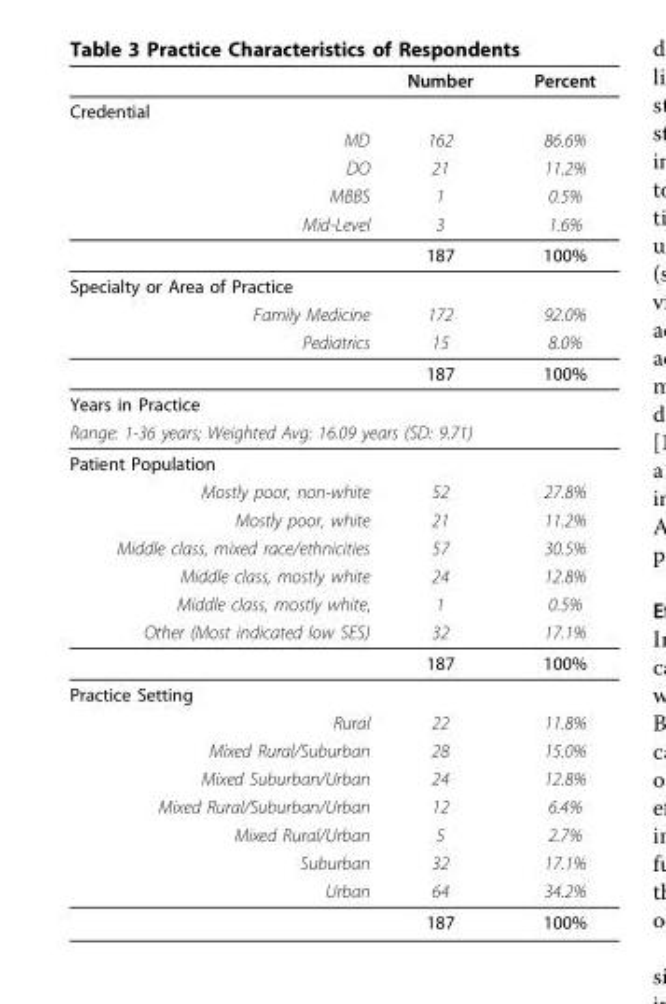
<table><thead><tr><td></td><td>Number</td><td>Percent</td></tr></thead><tbody><tr><td colspan="3">Credential</td></tr><tr><td>MD</td><td>162</td><td>86.6%</td></tr><tr><td>DO</td><td>21</td><td>11.2%</td></tr><tr><td>MBBS</td><td>1</td><td>0.5%</td></tr><tr><td rowspan="2">Mid-Level</td><td>3</td><td>1.6%</td></tr><tr><td>187</td><td>100%</td></tr><tr><td colspan="3">Specialty or Area of Practice</td></tr><tr><td>Family Medicine</td><td>172</td><td>92.0%</td></tr><tr><td rowspan="2">Pediatrics</td><td>15</td><td>8.0%</td></tr><tr><td>187</td><td>100%</td></tr><tr><td colspan="3">Years in Practice</td></tr><tr><td colspan="3">Range: 1-36 years; Weighted Avg: 16.09 years (SD: 9.71)</td></tr><tr><td colspan="3">Patient Population</td></tr><tr><td>Mostly poor, non-white</td><td>52</td><td>27.8%</td></tr><tr><td>Mostly poor, white</td><td>21</td><td>11.2%</td></tr><tr><td>Middle class, mixed race/ethnicities</td><td>57</td><td>30.5%</td></tr><tr><td>Middle class, mostly white</td><td>24</td><td>12.8%</td></tr><tr><td>Middle class, mostly white,</td><td>1</td><td>0.5%</td></tr><tr><td rowspan="2">Other (Most indicated low SES)</td><td>32</td><td>17.1%</td></tr><tr><td>187</td><td>100%</td></tr><tr><td colspan="3">Practice Setting</td></tr><tr><td>Rural</td><td>22</td><td>11.8%</td></tr><tr><td>Mixed Rural/Suburban</td><td>28</td><td>15.0%</td></tr><tr><td>Mixed Suburban/Urban</td><td>24</td><td>12.8%</td></tr><tr><td>Mixed Rural/Suburban/Urban</td><td>12</td><td>6.4%</td></tr><tr><td>Mixed Rural/Urban</td><td>5</td><td>2.7%</td></tr><tr><td>Suburban</td><td>32</td><td>17.1%</td></tr><tr><td rowspan="2">Urban</td><td>64</td><td>34.2%</td></tr><tr><td>187</td><td>100%</td></tr></tbody></table>